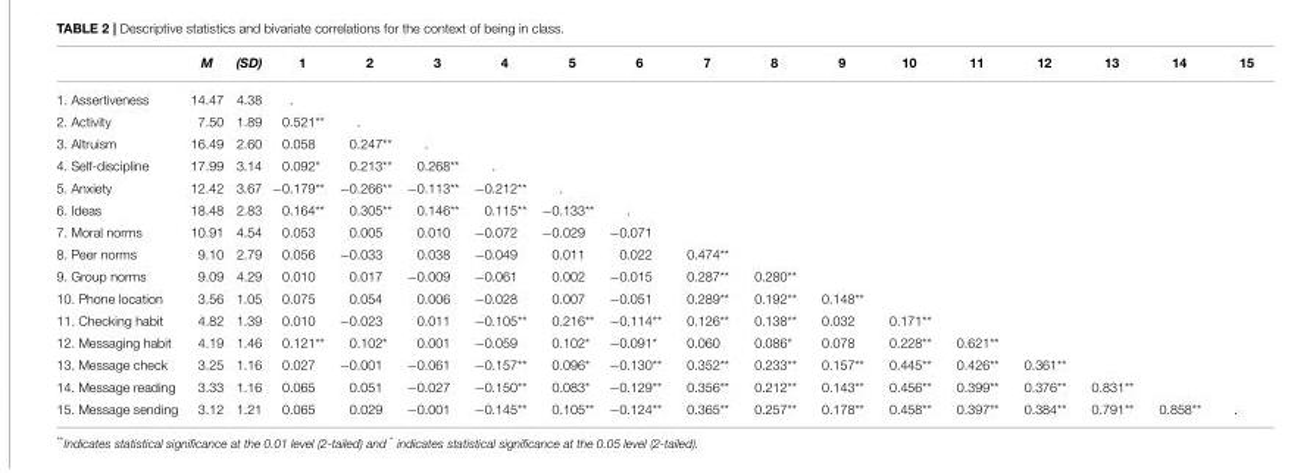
<table><thead><tr><td></td><td>M</td><td>(SD)</td><td>1</td><td>2</td><td>3</td><td>4</td><td>5</td><td>6</td><td>7</td><td>8</td><td>9</td><td>10</td><td>11</td><td>12</td><td>13</td><td>14</td><td>15</td></tr></thead><tbody><tr><td>1. Assertiveness</td><td>14.47</td><td>4.38</td><td>.</td><td></td><td></td><td></td><td></td><td></td><td></td><td></td><td></td><td></td><td></td><td></td><td></td><td></td><td></td></tr><tr><td>2. Activity</td><td>7.50</td><td>1.89</td><td>0.521**</td><td>.</td><td></td><td></td><td></td><td></td><td></td><td></td><td></td><td></td><td></td><td></td><td></td><td></td><td></td></tr><tr><td>3. Altruism</td><td>16.49</td><td>2.60</td><td>0.058</td><td>0.247**</td><td>.</td><td></td><td></td><td></td><td></td><td></td><td></td><td></td><td></td><td></td><td></td><td></td><td></td></tr><tr><td>4. Self-discipline</td><td>17.99</td><td>3.14</td><td>0.092*</td><td>0.213**</td><td>0.268**</td><td>.</td><td></td><td></td><td></td><td></td><td></td><td></td><td></td><td></td><td></td><td></td><td></td></tr><tr><td>5. Anxiety</td><td>12.42</td><td>3.67</td><td>−0.179**</td><td>−0.266**</td><td>−0.113**</td><td>−0.212**</td><td>.</td><td></td><td></td><td></td><td></td><td></td><td></td><td></td><td></td><td></td><td></td></tr><tr><td>6. Ideas</td><td>18.48</td><td>2.83</td><td>0.164**</td><td>0.305**</td><td>0.146**</td><td>0.115**</td><td>−0.133**</td><td>.</td><td></td><td></td><td></td><td></td><td></td><td></td><td></td><td></td><td></td></tr><tr><td>7. Moral norms</td><td>10.91</td><td>4.54</td><td>0.053</td><td>0.005</td><td>0.010</td><td>−0.072</td><td>−0.029</td><td>−0.071</td><td></td><td></td><td></td><td></td><td></td><td></td><td></td><td></td><td></td></tr><tr><td>8. Peer norms</td><td>9.10</td><td>2.79</td><td>0.056</td><td>−0.033</td><td>0.038</td><td>−0.049</td><td>0.011</td><td>0.022</td><td>0.474**</td><td></td><td></td><td></td><td></td><td></td><td></td><td></td><td></td></tr><tr><td>9. Group norms</td><td>9.09</td><td>4.29</td><td>0.010</td><td>0.017</td><td>−0.009</td><td>−0.061</td><td>0.002</td><td>−0.015</td><td>0.287**</td><td>0.280**</td><td></td><td></td><td></td><td></td><td></td><td></td><td></td></tr><tr><td>10. Phone location</td><td>3.56</td><td>1.05</td><td>0.075</td><td>0.054</td><td>0.006</td><td>−0.028</td><td>0.007</td><td>−0.051</td><td>0.289**</td><td>0.192**</td><td>0.148**</td><td></td><td></td><td></td><td></td><td></td><td></td></tr><tr><td>11. Checking habit</td><td>4.82</td><td>1.39</td><td>0.010</td><td>−0.023</td><td>0.011</td><td>−0.105**</td><td>0.216**</td><td>−0.114**</td><td>0.126**</td><td>0.138**</td><td>0.032</td><td>0.171**</td><td></td><td></td><td></td><td></td><td></td></tr><tr><td>12. Messaging habit</td><td>4.19</td><td>1.46</td><td>0.121**</td><td>0.102*</td><td>0.001</td><td>−0.059</td><td>0.102*</td><td>−0.091*</td><td>0.060</td><td>0.086*</td><td>0.078</td><td>0.228**</td><td>0.621**</td><td></td><td></td><td></td><td></td></tr><tr><td>13. Message check</td><td>3.25</td><td>1.16</td><td>0.027</td><td>−0.001</td><td>−0.061</td><td>−0.157**</td><td>0.096*</td><td>−0.130**</td><td>0.352**</td><td>0.233**</td><td>0.157**</td><td>0.445**</td><td>0.426**</td><td>0.361**</td><td></td><td></td><td></td></tr><tr><td>14. Message reading</td><td>3.33</td><td>1.16</td><td>0.065</td><td>0.051</td><td>−0.027</td><td>−0.150**</td><td>0.083*</td><td>−0.129**</td><td>0.356**</td><td>0.212**</td><td>0.143**</td><td>0.456**</td><td>0.399**</td><td>0.376**</td><td>0.831**</td><td></td><td></td></tr><tr><td>15. Message sending</td><td>3.12</td><td>1.21</td><td>0.065</td><td>0.029</td><td>−0.001</td><td>−0.145**</td><td>0.105**</td><td>−0.124**</td><td>0.365**</td><td>0.257**</td><td>0.178**</td><td>0.458**</td><td>0.397**</td><td>0.384**</td><td>0.791**</td><td>0.858**</td><td>.</td></tr></tbody></table>